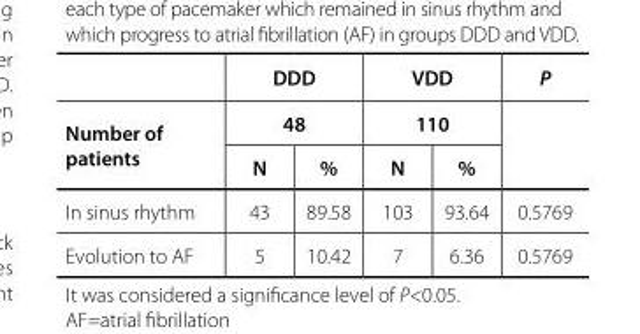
<table><thead><tr><td rowspan="3">Number of patients</td><td rowspan="2" colspan="2">DDD 48</td><td rowspan="2" colspan="2">VDD 110</td><td rowspan="3">P</td></tr><tr></tr><tr><td>N</td><td>%</td><td>N</td><td>%</td></tr></thead><tbody><tr><td>In sinus rhythm</td><td>43</td><td>89.58</td><td>103</td><td>93.64</td><td>0.5769</td></tr><tr><td>Evolution to AF</td><td>5</td><td>10.42</td><td>7</td><td>6.36</td><td>0.5769</td></tr></tbody></table>